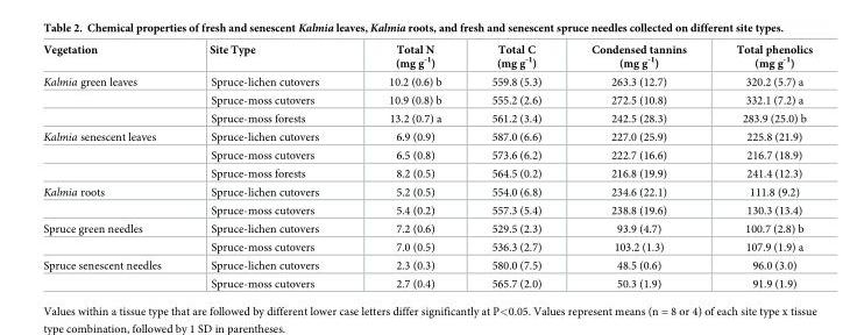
<table><thead><tr><td>Vegetation</td><td>Site Type</td><td>Total N (mg g<sup>-1</sup>)</td><td>Total C (mg g<sup>-1</sup>)</td><td>Condensed tannins (mg g<sup>-1</sup>)</td><td>Total phenolics (mg g<sup>-1</sup>)</td></tr></thead><tbody><tr><td rowspan="3">Kalmia green leaves</td><td>Spruce-lichen cutovers</td><td>10.2 (0.6) b</td><td>559.8 (5.3)</td><td>263.3 (12.7)</td><td>320.2 (5.7) a</td></tr><tr><td>Spruce-moss cutovers</td><td>10.9 (0.8) b</td><td>555.2 (2.6)</td><td>272.5 (10.8)</td><td>332.1 (7.2) a</td></tr><tr><td>Spruce-moss forests</td><td>13.2 (0.7) a</td><td>561.2 (3.4)</td><td>242.5 (28.3)</td><td>283.9 (25.0) b</td></tr><tr><td rowspan="3">Kalmia senescent leaves</td><td>Spruce-lichen cutovers</td><td>6.9 (0.9)</td><td>587.0 (6.6)</td><td>227.0 (25.9)</td><td>225.8 (21.9)</td></tr><tr><td>Spruce-moss cutovers</td><td>6.5 (0.8)</td><td>573.6 (6.2)</td><td>222.7 (16.6)</td><td>216.7 (18.9)</td></tr><tr><td>Spruce-moss forests</td><td>8.2 (0.5)</td><td>564.5 (0.2)</td><td>216.8 (19.9)</td><td>241.4 (12.3)</td></tr><tr><td rowspan="2">Kalmia roots</td><td>Spruce-lichen cutovers</td><td>5.2 (0.5)</td><td>554.0 (6.8)</td><td>234.6 (22.1)</td><td>111.8 (9.2)</td></tr><tr><td>Spruce-moss cutovers</td><td>5.4 (0.2)</td><td>557.3 (5.4)</td><td>238.8 (19.6)</td><td>130.3 (13.4)</td></tr><tr><td rowspan="2">Spruce green needles</td><td>Spruce-lichen cutovers</td><td>7.2 (0.6)</td><td>529.5 (2.3)</td><td>93.9 (4.7)</td><td>100.7 (2.8) b</td></tr><tr><td>Spruce-moss cutovers</td><td>7.0 (0.5)</td><td>536.3 (2.7)</td><td>103.2 (1.3)</td><td>107.9 (1.9) a</td></tr><tr><td rowspan="2">Spruce senescent needles</td><td>Spruce-lichen cutovers</td><td>2.3 (0.3)</td><td>580.0 (7.5)</td><td>48.5 (0.6)</td><td>96.0 (3.0)</td></tr><tr><td>Spruce-moss cutovers</td><td>2.7 (0.4)</td><td>565.7 (2.0)</td><td>50.3 (1.9)</td><td>91.9 (1.9)</td></tr></tbody></table>